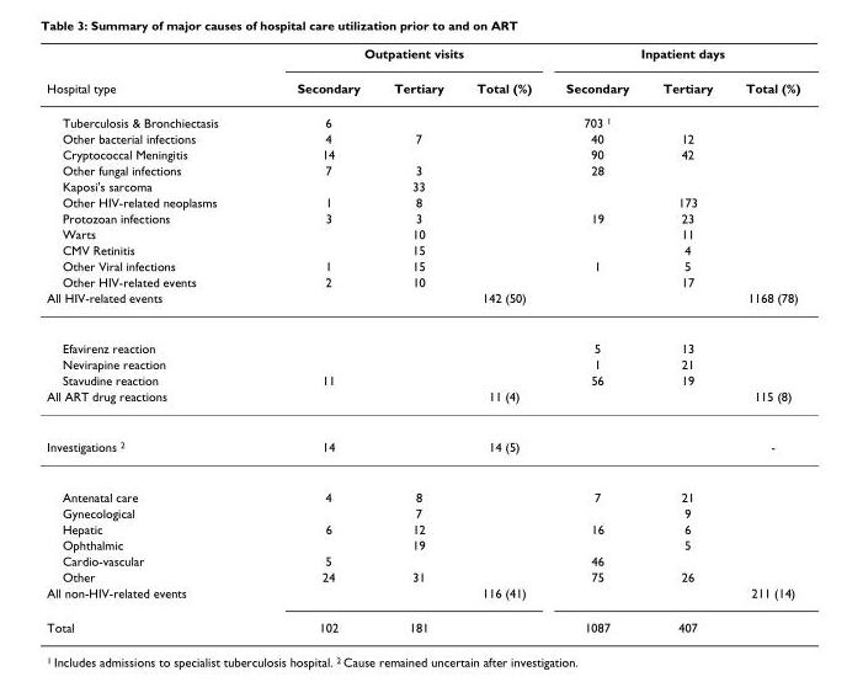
<table><thead><tr><td rowspan="2">Hospital type</td><td colspan="3">Outpatient visits</td><td colspan="3">Inpatient days</td></tr><tr><td>Secondary</td><td>Tertiary</td><td>Total (%)</td><td>Secondary</td><td>Tertiary</td><td>Total (%)</td></tr></thead><tbody><tr><td>Tuberculosis &amp; Bronchiectasis</td><td>6</td><td></td><td></td><td>703 <sup>1</sup></td><td></td><td></td></tr><tr><td>Other bacterial infections</td><td>4</td><td>7</td><td></td><td>40</td><td>12</td><td></td></tr><tr><td>Cryptococcal Meningitis</td><td>14</td><td></td><td></td><td>90</td><td>42</td><td></td></tr><tr><td>Other fungal infections</td><td>7</td><td>3</td><td></td><td>28</td><td></td><td></td></tr><tr><td>Kaposi&#x27;s sarcoma</td><td></td><td>33</td><td></td><td></td><td></td><td></td></tr><tr><td>Other HIV-related neoplasms</td><td>1</td><td>8</td><td></td><td></td><td>173</td><td></td></tr><tr><td>Protozoan infections</td><td>3</td><td>3</td><td></td><td>19</td><td>23</td><td></td></tr><tr><td>Warts</td><td></td><td>10</td><td></td><td></td><td>11</td><td></td></tr><tr><td>CMV Retinitis</td><td></td><td>15</td><td></td><td></td><td>4</td><td></td></tr><tr><td>Other Viral infections</td><td>1</td><td>15</td><td></td><td>1</td><td>5</td><td></td></tr><tr><td>Other HIV-related events</td><td>2</td><td>10</td><td></td><td></td><td>17</td><td></td></tr><tr><td>All HIV-related events</td><td></td><td></td><td>142 (50)</td><td></td><td></td><td>1168 (78)</td></tr><tr><td>Efavirenz reaction</td><td></td><td></td><td></td><td>5</td><td>13</td><td></td></tr><tr><td>Nevirapine reaction</td><td></td><td></td><td></td><td>1</td><td>21</td><td></td></tr><tr><td>Stavudine reaction</td><td>11</td><td></td><td></td><td>56</td><td>19</td><td></td></tr><tr><td>All ART drug reactions</td><td></td><td></td><td>11 (4)</td><td></td><td></td><td>115 (8)</td></tr><tr><td>Investigations <sup>2</sup></td><td>14</td><td></td><td>14 (5)</td><td></td><td></td><td>-</td></tr><tr><td>Antenatal care</td><td>4</td><td>8</td><td></td><td>7</td><td>21</td><td></td></tr><tr><td>Gynecological</td><td></td><td>7</td><td></td><td></td><td>9</td><td></td></tr><tr><td>Hepatic</td><td>6</td><td>12</td><td></td><td>16</td><td>6</td><td></td></tr><tr><td>Ophthalmic</td><td></td><td>19</td><td></td><td></td><td>5</td><td></td></tr><tr><td>Cardio-vascular</td><td>5</td><td></td><td></td><td>46</td><td></td><td></td></tr><tr><td>Other</td><td>24</td><td>31</td><td></td><td>75</td><td>26</td><td></td></tr><tr><td>All non-HIV-related events</td><td></td><td></td><td>116 (41)</td><td></td><td></td><td>211 (14)</td></tr><tr><td>Total</td><td>102</td><td>181</td><td></td><td>1087</td><td>407</td><td></td></tr></tbody></table>